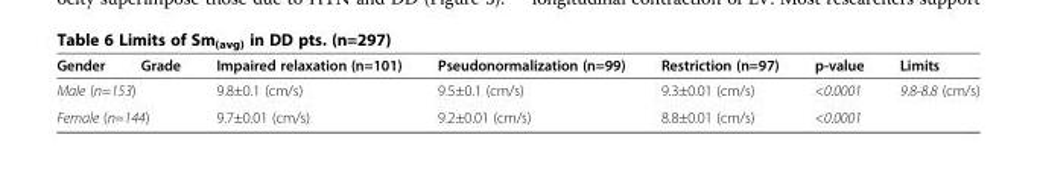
<table><thead><tr><td>Gender</td><td>Grade</td><td>Impaired relaxation (n=101)</td><td>Pseudonormalization (n=99)</td><td>Restriction (n=97)</td><td>p-value</td><td>Limits</td></tr></thead><tbody><tr><td colspan="2">Male (n=153)</td><td>9.8±0.1 (cm/s)</td><td>9.5±0.1 (cm/s)</td><td>9.3±0.01 (cm/s)</td><td>&lt;0.0001</td><td rowspan="2">9.8-8.8 (cm/s)</td></tr><tr><td colspan="2">Female (n=144)</td><td>9.7±0.01 (cm/s)</td><td>9.2±0.01 (cm/s)</td><td>8.8±0.01 (cm/s)</td><td>&lt;0.0001</td></tr></tbody></table>